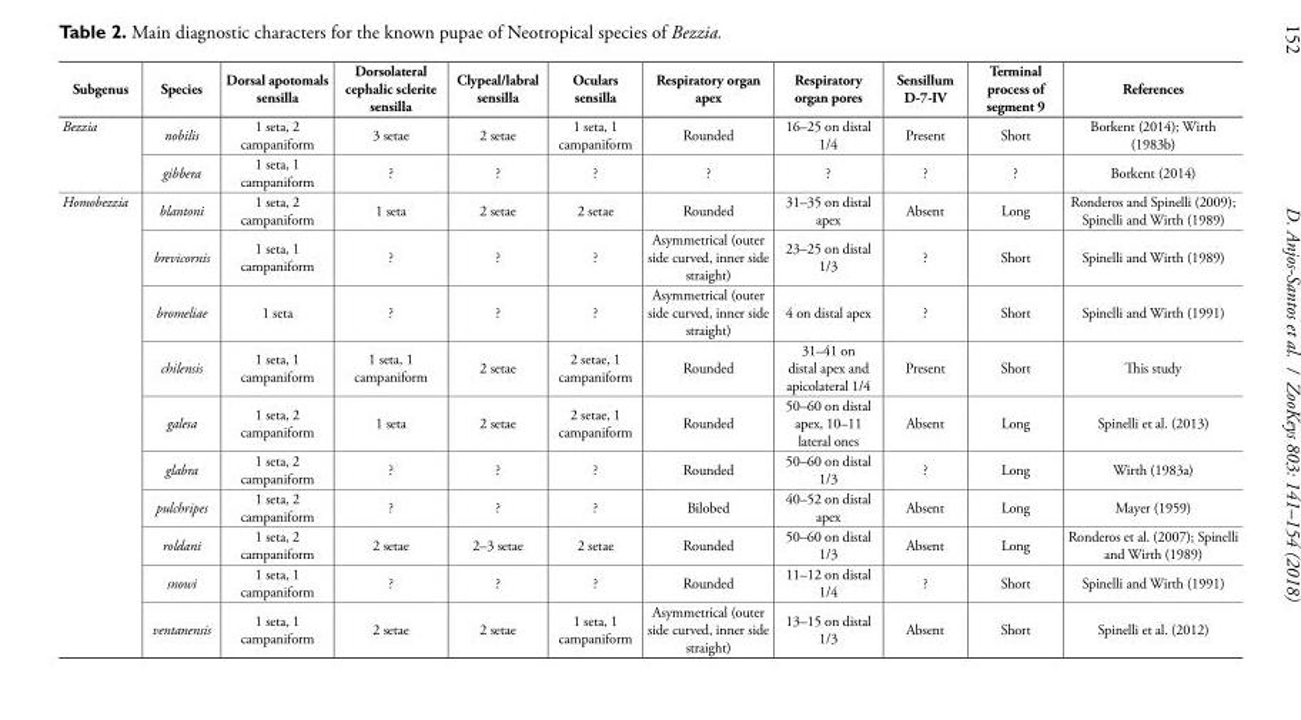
<table><thead><tr><td>Subgenus</td><td>Species</td><td>Dorsal apotomals sensilla</td><td>Dorsolateral cephalic sclerite sensilla</td><td>Clypeal/labral sensilla</td><td>Oculars sensilla</td><td>Respiratory organ apex</td><td>Respiratory organ pores</td><td>Sensillum D-7-IV</td><td>Terminal process of segment 9</td><td>References</td></tr></thead><tbody><tr><td rowspan="2">Bezzia</td><td>nobilis</td><td>1 seta, 2 campaniform</td><td>3 setae</td><td>2 setae</td><td>1 seta, 1 campaniform</td><td>Rounded</td><td>16–25 on distal 1/4</td><td>Present</td><td>Short</td><td>Borkent (2014); Wirth (1983b)</td></tr><tr><td>gibbera</td><td>1 seta, 1 campaniform</td><td>?</td><td>?</td><td>?</td><td>?</td><td>?</td><td>?</td><td>?</td><td>Borkent (2014)</td></tr><tr><td rowspan="10">Homobezzia</td><td>blantoni</td><td>1 seta, 2 campaniform</td><td>1 seta</td><td>2 setae</td><td>2 setae</td><td>Rounded</td><td>31–35 on distal apex</td><td>Absent</td><td>Long</td><td>Ronderos and Spinelli (2009); Spinelli and Wirth (1989)</td></tr><tr><td>brevicornis</td><td>1 seta, 1 campaniform</td><td>?</td><td>?</td><td>?</td><td>Asymmetrical (outer side curved, inner side straight)</td><td>23–25 on distal 1/3</td><td>?</td><td>Short</td><td>Spinelli and Wirth (1989)</td></tr><tr><td>bromeliae</td><td>1 seta</td><td>?</td><td>?</td><td>?</td><td>Asymmetrical (outer side curved, inner side straight)</td><td>4 on distal apex</td><td>?</td><td>Short</td><td>Spinelli and Wirth (1991)</td></tr><tr><td>chilensis</td><td>1 seta, 1 campaniform</td><td>1 seta, 1 campaniform</td><td>2 setae</td><td>2 setae, 1 campaniform</td><td>Rounded</td><td>31–41 on distal apex and apicolateral 1/4</td><td>Present</td><td>Short</td><td>This study</td></tr><tr><td>galesa</td><td>1 seta, 2 campaniform</td><td>1 seta</td><td>2 setae</td><td>2 setae, 1 campaniform</td><td>Rounded</td><td>50–60 on distal apex, 10–11 lateral ones</td><td>Absent</td><td>Long</td><td>Spinelli et al. (2013)</td></tr><tr><td>glabra</td><td>1 seta, 2 campaniform</td><td>?</td><td>?</td><td>?</td><td>Rounded</td><td>50–60 on distal 1/3</td><td>?</td><td>Long</td><td>Wirth (1983a)</td></tr><tr><td>pulchripes</td><td>1 seta, 2 campaniform</td><td>?</td><td>?</td><td>?</td><td>Bilobed</td><td>40–52 on distal apex</td><td>Absent</td><td>Long</td><td>Mayer (1959)</td></tr><tr><td>roldani</td><td>1 seta, 2 campaniform</td><td>2 setae</td><td>2–3 setae</td><td>2 setae</td><td>Rounded</td><td>50–60 on distal 1/3</td><td>Absent</td><td>Long</td><td>Ronderos et al. (2007); Spinelli and Wirth (1989)</td></tr><tr><td>snowi</td><td>1 seta, 1 campaniform</td><td>?</td><td>?</td><td>?</td><td>Rounded</td><td>11–12 on distal 1/4</td><td>?</td><td>Short</td><td>Spinelli and Wirth (1991)</td></tr><tr><td>ventanensis</td><td>1 seta, 1 campaniform</td><td>2 setae</td><td>2 setae</td><td>1 seta, 1 campaniform</td><td>Asymmetrical (outer side curved, inner side straight)</td><td>13–15 on distal 1/3</td><td>Absent</td><td>Short</td><td>Spinelli et al. (2012)</td></tr></tbody></table>